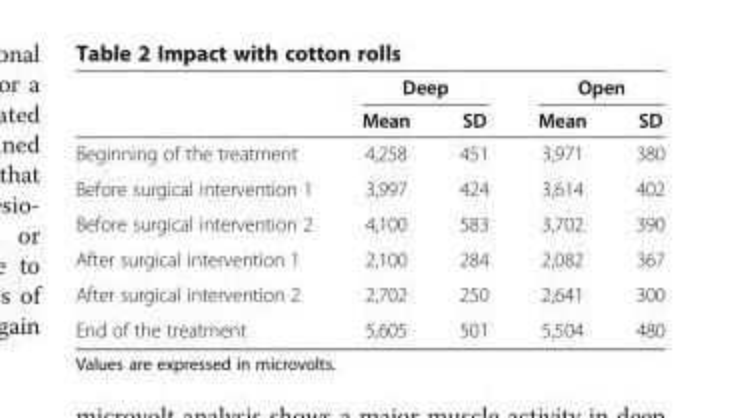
<table><thead><tr><td rowspan="2"></td><td colspan="2">Deep</td><td colspan="2">Open</td></tr><tr><td>Mean</td><td>SD</td><td>Mean</td><td>SD</td></tr></thead><tbody><tr><td>Beginning of the treatment</td><td>4,258</td><td>451</td><td>3,971</td><td>380</td></tr><tr><td>Before surgical intervention 1</td><td>3,997</td><td>424</td><td>3,614</td><td>402</td></tr><tr><td>Before surgical intervention 2</td><td>4,100</td><td>583</td><td>3,702</td><td>390</td></tr><tr><td>After surgical intervention 1</td><td>2,100</td><td>284</td><td>2,082</td><td>367</td></tr><tr><td>After surgical intervention 2</td><td>2,702</td><td>250</td><td>2,641</td><td>300</td></tr><tr><td>End of the treatment</td><td>5,605</td><td>501</td><td>5,504</td><td>480</td></tr></tbody></table>